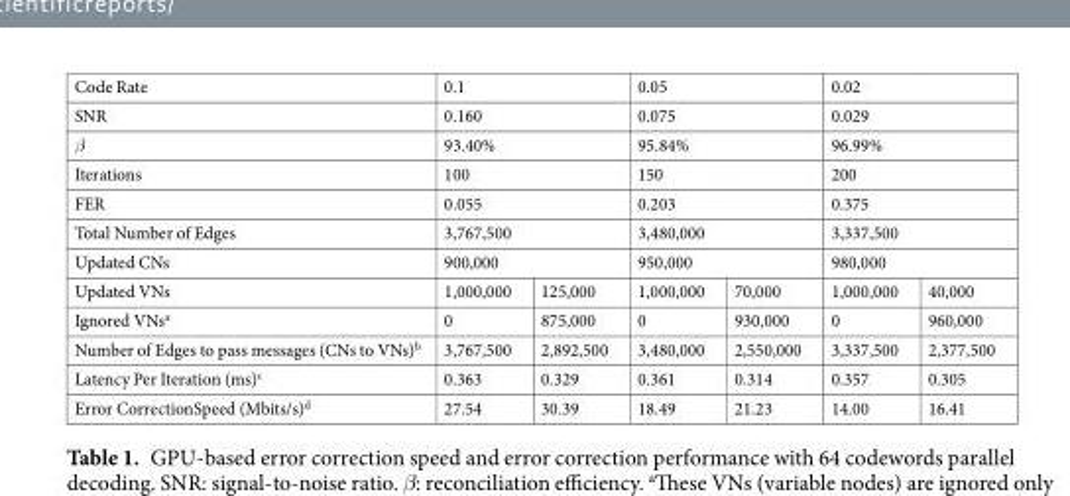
<table><tbody><tr><td>Code Rate</td><td colspan="2">0.1</td><td colspan="2">0.05</td><td colspan="2">0.02</td></tr><tr><td>SNR</td><td colspan="2">0.160</td><td colspan="2">0.075</td><td colspan="2">0.029</td></tr><tr><td>β</td><td colspan="2">93.40%</td><td colspan="2">95.84%</td><td colspan="2">96.99%</td></tr><tr><td>Iterations</td><td colspan="2">100</td><td colspan="2">150</td><td colspan="2">200</td></tr><tr><td>FER</td><td colspan="2">0.055</td><td colspan="2">0.203</td><td colspan="2">0.375</td></tr><tr><td>Total Number of Edges</td><td colspan="2">3,767,500</td><td colspan="2">3,480,000</td><td colspan="2">3,337,500</td></tr><tr><td>Updated CNs</td><td colspan="2">900,000</td><td colspan="2">950,000</td><td colspan="2">980,000</td></tr><tr><td>Updated VNs</td><td>1,000,000</td><td>125,000</td><td>1,000,000</td><td>70,000</td><td>1,000,000</td><td>40,000</td></tr><tr><td>Ignored VNs<sup>a</sup></td><td>0</td><td>875,000</td><td>0</td><td>930,000</td><td>0</td><td>960,000</td></tr><tr><td>Number of Edges to pass messages (CNs to VNs)<sup>b</sup></td><td>3,767,500</td><td>2,892,500</td><td>3,480,000</td><td>2,550,000</td><td>3,337,500</td><td>2,377,500</td></tr><tr><td>Latency Per Iteration (ms)<sup>c</sup></td><td>0.363</td><td>0.329</td><td>0.361</td><td>0.314</td><td>0.357</td><td>0.305</td></tr><tr><td>Error CorrectionSpeed (Mbits/s)<sup>d</sup></td><td>27.54</td><td>30.39</td><td>18.49</td><td>21.23</td><td>14.00</td><td>16.41</td></tr></tbody></table>